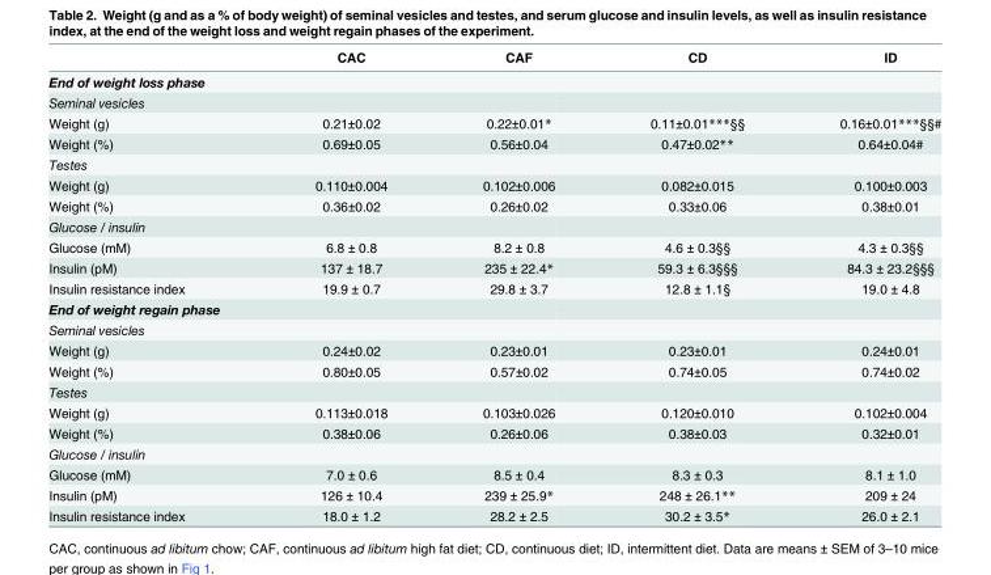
<table><thead><tr><td></td><td>CAC</td><td>CAF</td><td>CD</td><td>ID</td></tr></thead><tbody><tr><td colspan="5">End of weight loss phase</td></tr><tr><td colspan="5">Seminal vesicles</td></tr><tr><td>Weight (g)</td><td>0.21±0.02</td><td>0.22±0.01*</td><td>0.11±0.01***§§</td><td>0.16±0.01***§§#</td></tr><tr><td>Weight (%)</td><td>0.69±0.05</td><td>0.56±0.04</td><td>0.47±0.02**</td><td>0.64±0.04#</td></tr><tr><td colspan="5">Testes</td></tr><tr><td>Weight (g)</td><td>0.110±0.004</td><td>0.102±0.006</td><td>0.082±0.015</td><td>0.100±0.003</td></tr><tr><td>Weight (%)</td><td>0.36±0.02</td><td>0.26±0.02</td><td>0.33±0.06</td><td>0.38±0.01</td></tr><tr><td colspan="5">Glucose / insulin</td></tr><tr><td>Glucose (mM)</td><td>6.8 ± 0.8</td><td>8.2 ± 0.8</td><td>4.6 ± 0.3§§</td><td>4.3 ± 0.3§§</td></tr><tr><td>Insulin (pM)</td><td>137 ± 18.7</td><td>235 ± 22.4*</td><td>59.3 ± 6.3§§§</td><td>84.3 ± 23.2§§§</td></tr><tr><td>Insulin resistance index</td><td>19.9 ± 0.7</td><td>29.8 ± 3.7</td><td>12.8 ± 1.1§</td><td>19.0 ± 4.8</td></tr><tr><td colspan="5">End of weight regain phase</td></tr><tr><td colspan="5">Seminal vesicles</td></tr><tr><td>Weight (g)</td><td>0.24±0.02</td><td>0.23±0.01</td><td>0.23±0.01</td><td>0.24±0.01</td></tr><tr><td>Weight (%)</td><td>0.80±0.05</td><td>0.57±0.02</td><td>0.74±0.05</td><td>0.74±0.02</td></tr><tr><td colspan="5">Testes</td></tr><tr><td>Weight (g)</td><td>0.113±0.018</td><td>0.103±0.026</td><td>0.120±0.010</td><td>0.102±0.004</td></tr><tr><td>Weight (%)</td><td>0.38±0.06</td><td>0.26±0.06</td><td>0.38±0.03</td><td>0.32±0.01</td></tr><tr><td colspan="5">Glucose / insulin</td></tr><tr><td>Glucose (mM)</td><td>7.0 ± 0.6</td><td>8.5 ± 0.4</td><td>8.3 ± 0.3</td><td>8.1 ± 1.0</td></tr><tr><td>Insulin (pM)</td><td>126 ± 10.4</td><td>239 ± 25.9*</td><td>248 ± 26.1**</td><td>209 ± 24</td></tr><tr><td>Insulin resistance index</td><td>18.0 ± 1.2</td><td>28.2 ± 2.5</td><td>30.2 ± 3.5*</td><td>26.0 ± 2.1</td></tr></tbody></table>